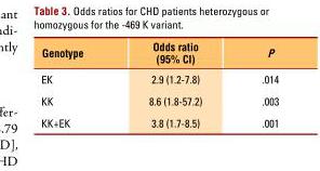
<table><thead><tr><td>Genotype</td><td>Odds ratio (95% CI)</td><td>P</td></tr></thead><tbody><tr><td>EK</td><td>2.9 (1.2-7.8)</td><td>.014</td></tr><tr><td>KK</td><td>8.6 (1.8-57.2)</td><td>.003</td></tr><tr><td>KK+EK</td><td>3.8 (1.7-8.5)</td><td>.001</td></tr></tbody></table>